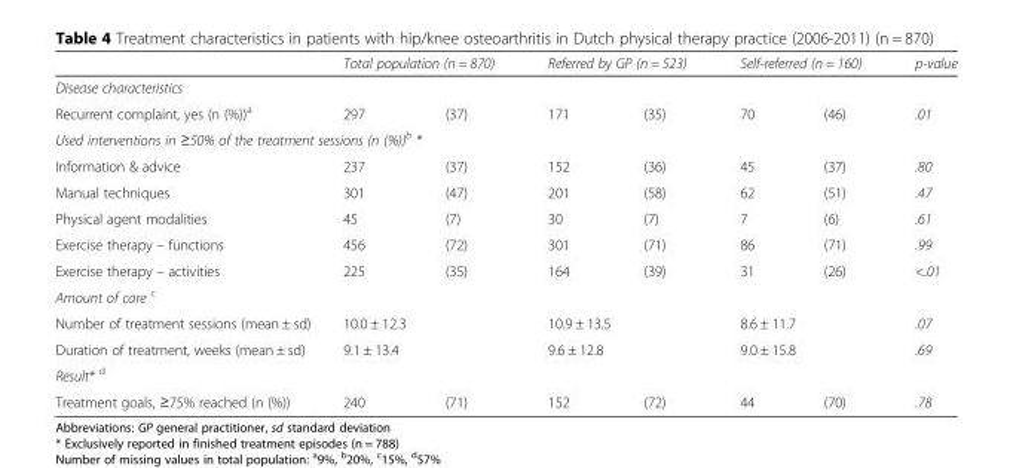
<table><thead><tr><td></td><td colspan="2">Total population (n = 870)</td><td colspan="2">Referred by GP (n = 523)</td><td colspan="2">Self-referred (n = 160)</td><td>p-value</td></tr><tr><td colspan="8">Disease characteristics</td></tr><tr><td>Recurrent complaint, yes (n (%))<sup>a</sup></td><td>297</td><td>(37)</td><td>171</td><td>(35)</td><td>70</td><td>(46)</td><td>.01</td></tr></thead><tbody><tr><td colspan="8">Used interventions in ≥50% of the treatment sessions (n (%))<sup>b</sup> *</td></tr><tr><td>Information &amp; advice</td><td>237</td><td>(37)</td><td>152</td><td>(36)</td><td>45</td><td>(37)</td><td>.80</td></tr><tr><td>Manual techniques</td><td>301</td><td>(47)</td><td>201</td><td>(58)</td><td>62</td><td>(51)</td><td>.47</td></tr><tr><td>Physical agent modalities</td><td>45</td><td>(7)</td><td>30</td><td>(7)</td><td>7</td><td>(6)</td><td>.61</td></tr><tr><td>Exercise therapy – functions</td><td>456</td><td>(72)</td><td>301</td><td>(71)</td><td>86</td><td>(71)</td><td>.99</td></tr><tr><td>Exercise therapy – activities</td><td>225</td><td>(35)</td><td>164</td><td>(39)</td><td>31</td><td>(26)</td><td>&lt;.01</td></tr><tr><td colspan="8">Amount of care <sup>c</sup></td></tr><tr><td>Number of treatment sessions (mean ± sd)</td><td colspan="2">10.0 ± 12.3</td><td colspan="2">10.9 ± 13.5</td><td colspan="2">8.6 ± 11.7</td><td>.07</td></tr><tr><td>Duration of treatment, weeks (mean ± sd)</td><td colspan="2">9.1 ± 13.4</td><td colspan="2">9.6 ± 12.8</td><td colspan="2">9.0 ± 15.8</td><td>.69</td></tr><tr><td colspan="8">Result* <sup>d</sup></td></tr><tr><td>Treatment goals, ≥75% reached (n (%))</td><td>240</td><td>(71)</td><td>152</td><td>(72)</td><td>44</td><td>(70)</td><td>.78</td></tr></tbody></table>